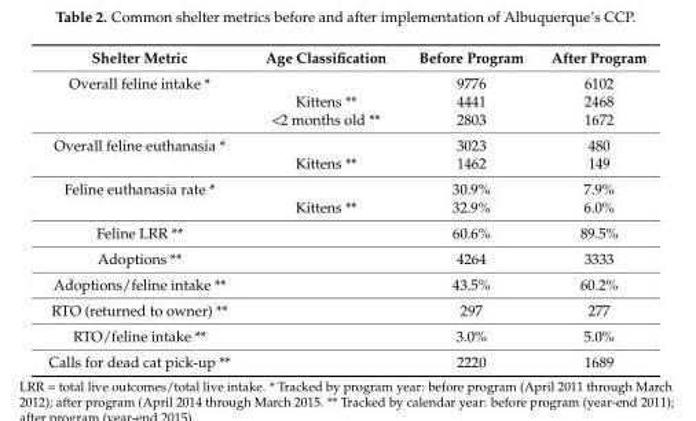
<table><thead><tr><td>Shelter Metric</td><td>Age Classification</td><td>Before Program</td><td>After Program</td></tr></thead><tbody><tr><td rowspan="3">Overall feline intake *</td><td></td><td>9776</td><td>6102</td></tr><tr><td>Kittens **</td><td>4441</td><td>2468</td></tr><tr><td>&lt;2 months old **</td><td>2803</td><td>1672</td></tr><tr><td rowspan="2">Overall feline euthanasia *</td><td></td><td>3023</td><td>480</td></tr><tr><td>Kittens **</td><td>1462</td><td>149</td></tr><tr><td rowspan="2">Feline euthanasia rate *</td><td></td><td>30.9%</td><td>7.9%</td></tr><tr><td>Kittens **</td><td>32.9%</td><td>6.0%</td></tr><tr><td>Feline LRR **</td><td></td><td>60.6%</td><td>89.5%</td></tr><tr><td>Adoptions **</td><td></td><td>4264</td><td>3333</td></tr><tr><td>Adoptions/feline intake **</td><td></td><td>43.5%</td><td>60.2%</td></tr><tr><td>RTO (returned to owner) **</td><td></td><td>297</td><td>277</td></tr><tr><td>RTO/feline intake **</td><td></td><td>3.0%</td><td>5.0%</td></tr><tr><td>Calls for dead cat pick-up **</td><td></td><td>2220</td><td>1689</td></tr></tbody></table>